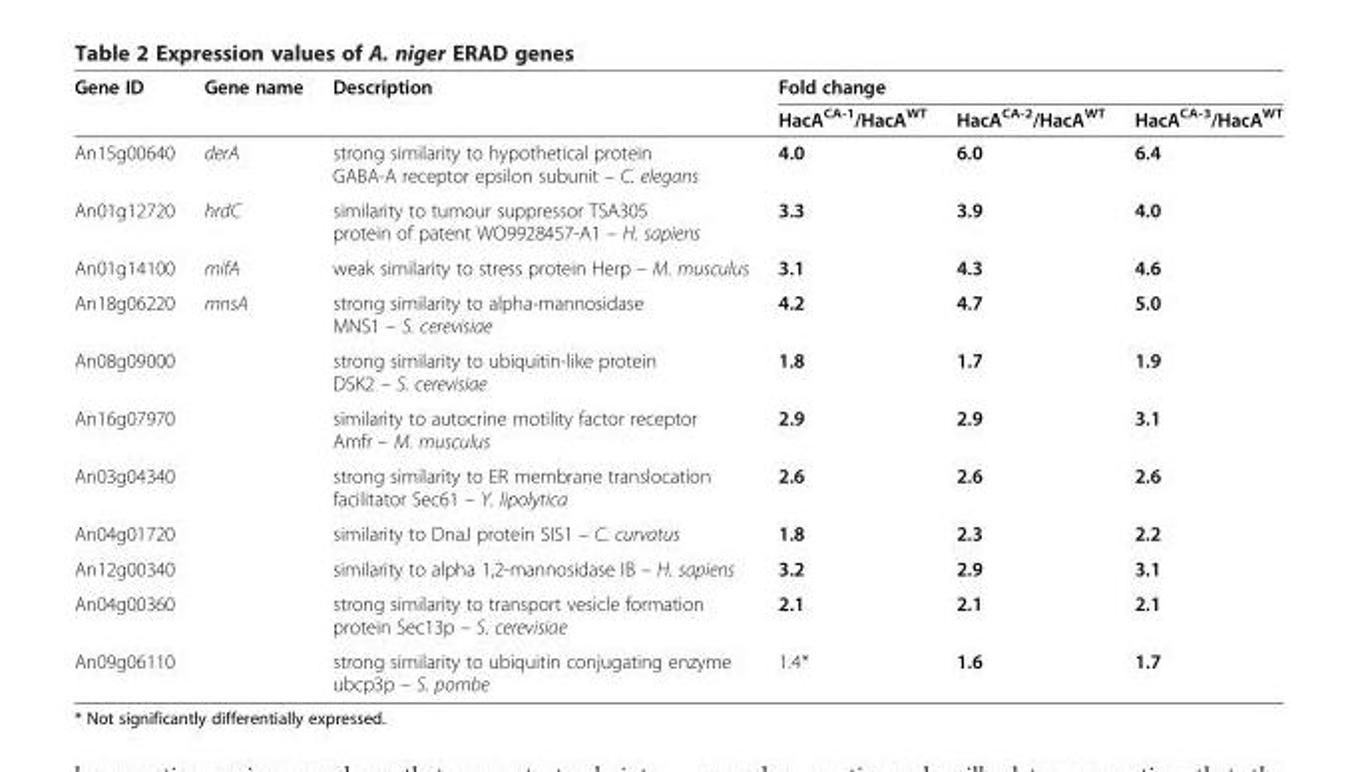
<table><thead><tr><td rowspan="2">Gene ID</td><td rowspan="2">Gene name</td><td rowspan="2">Description</td><td colspan="3">Fold change</td></tr><tr><td>HacA<sup>CA-1</sup>/HacA<sup>WT</sup></td><td>HacA<sup>CA-2</sup>/HacA<sup>WT</sup></td><td>HacA<sup>CA-3</sup>/HacA<sup>WT</sup></td></tr></thead><tbody><tr><td>An15g00640</td><td>derA</td><td>strong similarity to hypothetical protein GABA-A receptor epsilon subunit – C. elegans</td><td>4.0</td><td>6.0</td><td>6.4</td></tr><tr><td>An01g12720</td><td>hrdC</td><td>similarity to tumour suppressor TSA305 protein of patent WO9928457-A1 – H. sapiens</td><td>3.3</td><td>3.9</td><td>4.0</td></tr><tr><td>An01g14100</td><td>mifA</td><td>weak similarity to stress protein Herp – M. musculus</td><td>3.1</td><td>4.3</td><td>4.6</td></tr><tr><td>An18g06220</td><td>mnsA</td><td>strong similarity to alpha-mannosidase MNS1 – S. cerevisiae</td><td>4.2</td><td>4.7</td><td>5.0</td></tr><tr><td>An08g09000</td><td></td><td>strong similarity to ubiquitin-like protein DSK2 – S. cerevisiae</td><td>1.8</td><td>1.7</td><td>1.9</td></tr><tr><td>An16g07970</td><td></td><td>similarity to autocrine motility factor receptor Amfr – M. musculus</td><td>2.9</td><td>2.9</td><td>3.1</td></tr><tr><td>An03g04340</td><td></td><td>strong similarity to ER membrane translocation facilitator Sec61 – Y. lipolytica</td><td>2.6</td><td>2.6</td><td>2.6</td></tr><tr><td>An04g01720</td><td></td><td>similarity to DnaJ protein SIS1 – C. curvatus</td><td>1.8</td><td>2.3</td><td>2.2</td></tr><tr><td>An12g00340</td><td></td><td>similarity to alpha 1,2-mannosidase IB – H. sapiens</td><td>3.2</td><td>2.9</td><td>3.1</td></tr><tr><td>An04g00360</td><td></td><td>strong similarity to transport vesicle formation protein Sec13p – S. cerevisiae</td><td>2.1</td><td>2.1</td><td>2.1</td></tr><tr><td>An09g06110</td><td></td><td>strong similarity to ubiquitin conjugating enzyme ubcp3p – S. pombe</td><td>1.4*</td><td>1.6</td><td>1.7</td></tr></tbody></table>